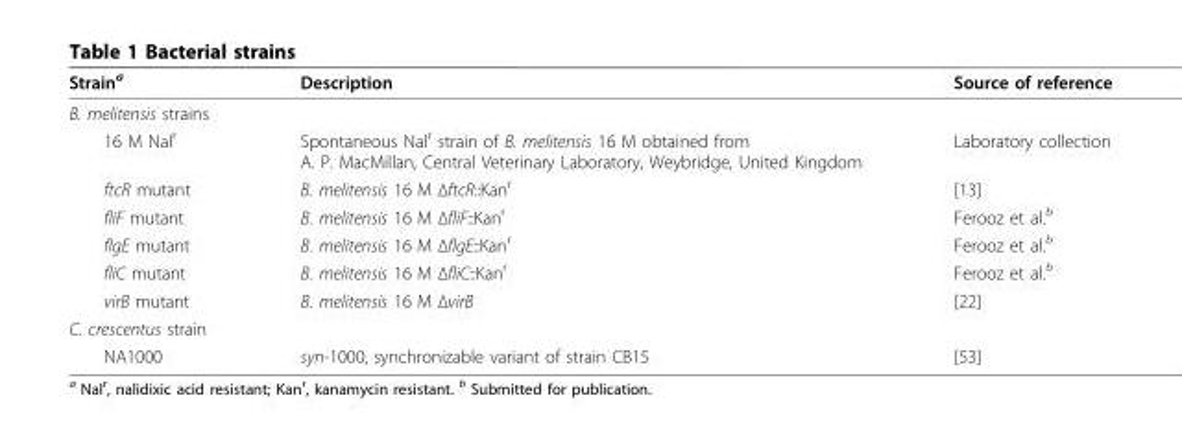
<table><thead><tr><td>Strain<sup>a</sup></td><td>Description</td><td>Source of reference</td></tr></thead><tbody><tr><td colspan="3">B. melitensis strains</td></tr><tr><td>16 M Nal<sup>r</sup></td><td>Spontaneous Nal<sup>r</sup> strain of B. melitensis 16 M obtained from A. P. MacMillan, Central Veterinary Laboratory, Weybridge, United Kingdom</td><td>Laboratory collection</td></tr><tr><td>ftcR mutant</td><td>B. melitensis 16 M ΔftcR::Kan<sup>r</sup></td><td>[13]</td></tr><tr><td>fliF mutant</td><td>B. melitensis 16 M ΔfliF::Kan<sup>r</sup></td><td>Ferooz et al.<sup>b</sup></td></tr><tr><td>flgE mutant</td><td>B. melitensis 16 M ΔflgE::Kan<sup>r</sup></td><td>Ferooz et al.<sup>b</sup></td></tr><tr><td>fliC mutant</td><td>B. melitensis 16 M ΔfliC::Kan<sup>r</sup></td><td>Ferooz et al.<sup>b</sup></td></tr><tr><td>virB mutant</td><td>B. melitensis 16 M ΔvirB</td><td>[22]</td></tr><tr><td colspan="3">C. crescentus strain</td></tr><tr><td>NA1000</td><td>syn-1000, synchronizable variant of strain CB15</td><td>[53]</td></tr></tbody></table>